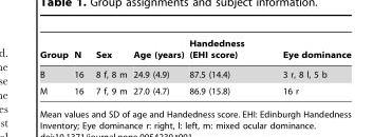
<table><thead><tr><td>Group</td><td>N</td><td>Sex</td><td>Age (years)</td><td>Handedness (EHI score)</td><td>Eye dominance</td></tr></thead><tbody><tr><td>B</td><td>16</td><td>8 f, 8 m</td><td>24.9 (4.9)</td><td>87.5 (14.4)</td><td>3 r, 8 l, 5 b</td></tr><tr><td>M</td><td>16</td><td>7 f, 9 m</td><td>27.0 (4.7)</td><td>86.9 (15.8)</td><td>16 r</td></tr></tbody></table>